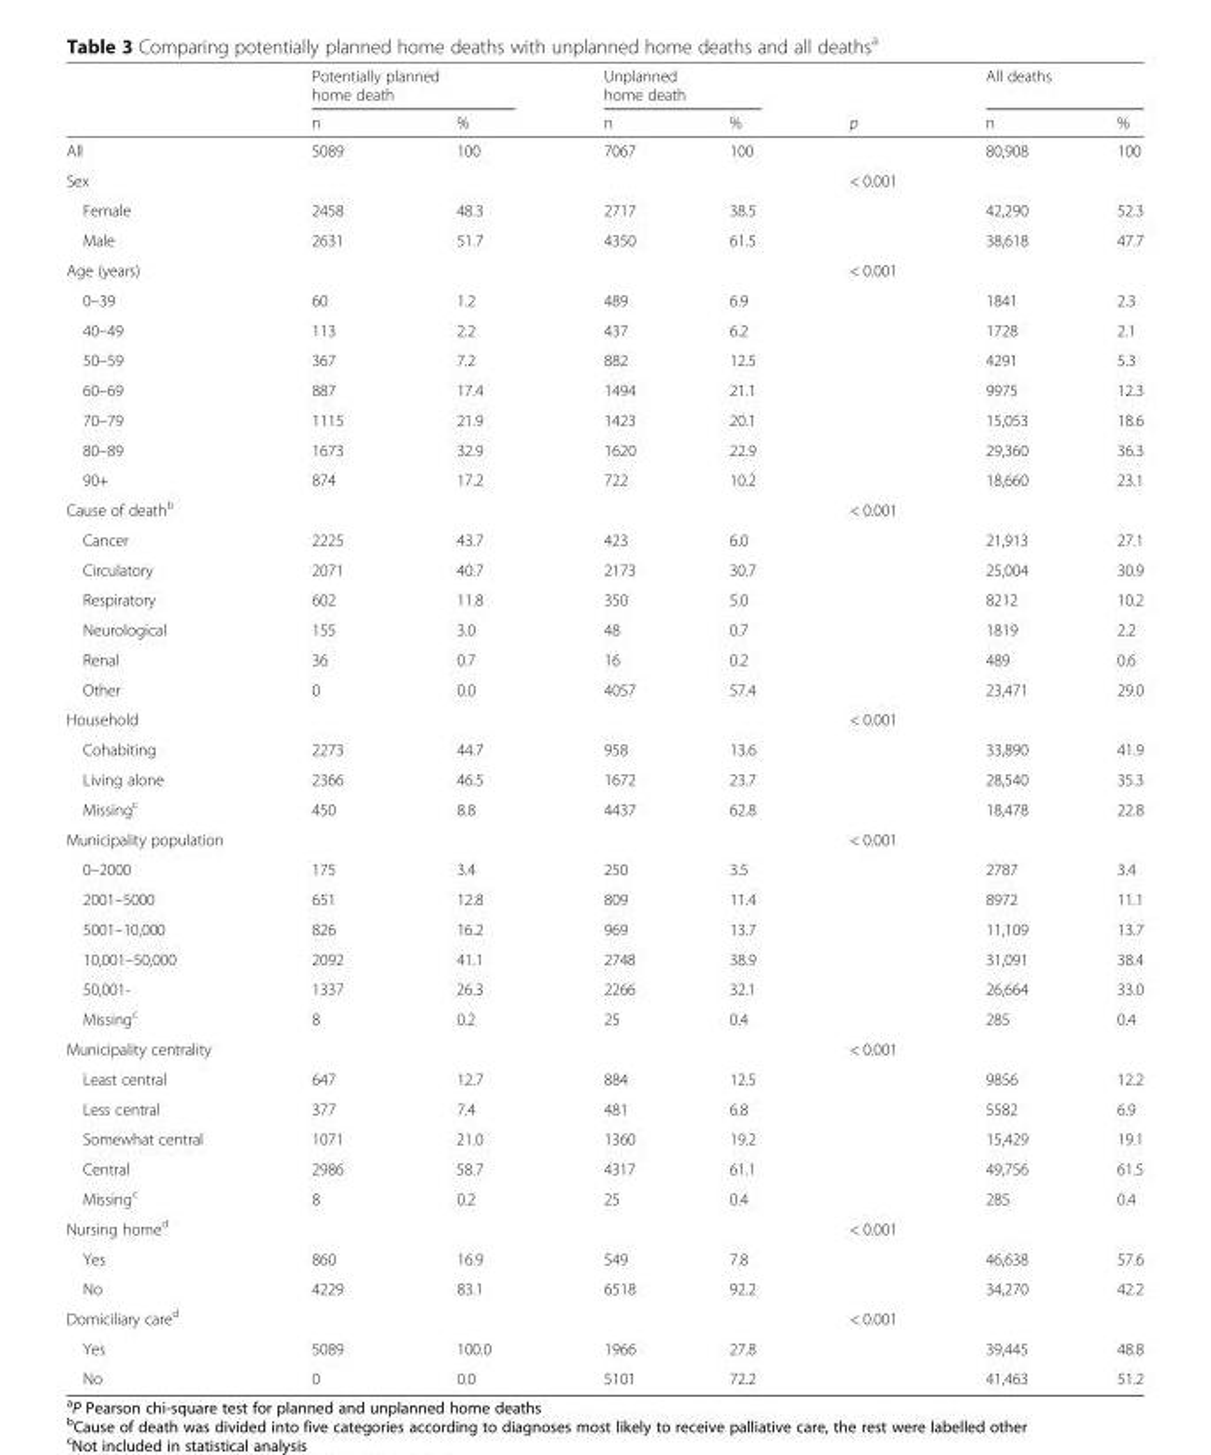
<table><thead><tr><td rowspan="2"></td><td colspan="2">Potentially planned home death</td><td colspan="2">Unplanned home death</td><td rowspan="2">p</td><td colspan="2">All deaths</td></tr><tr><td>n</td><td>%</td><td>n</td><td>%</td><td>n</td><td>%</td></tr></thead><tbody><tr><td>All</td><td>5089</td><td>100</td><td>7067</td><td>100</td><td></td><td>80,908</td><td>100</td></tr><tr><td>Sex</td><td></td><td></td><td></td><td></td><td>&lt; 0.001</td><td></td><td></td></tr><tr><td>Female</td><td>2458</td><td>48.3</td><td>2717</td><td>38.5</td><td></td><td>42,290</td><td>52.3</td></tr><tr><td>Male</td><td>2631</td><td>51.7</td><td>4350</td><td>61.5</td><td></td><td>38,618</td><td>47.7</td></tr><tr><td>Age (years)</td><td></td><td></td><td></td><td></td><td>&lt; 0.001</td><td></td><td></td></tr><tr><td>0–39</td><td>60</td><td>1.2</td><td>489</td><td>6.9</td><td></td><td>1841</td><td>2.3</td></tr><tr><td>40–49</td><td>113</td><td>2.2</td><td>437</td><td>6.2</td><td></td><td>1728</td><td>2.1</td></tr><tr><td>50–59</td><td>367</td><td>7.2</td><td>882</td><td>12.5</td><td></td><td>4291</td><td>5.3</td></tr><tr><td>60–69</td><td>887</td><td>17.4</td><td>1494</td><td>21.1</td><td></td><td>9975</td><td>12.3</td></tr><tr><td>70–79</td><td>1115</td><td>21.9</td><td>1423</td><td>20.1</td><td></td><td>15,053</td><td>18.6</td></tr><tr><td>80–89</td><td>1673</td><td>32.9</td><td>1620</td><td>22.9</td><td></td><td>29,360</td><td>36.3</td></tr><tr><td>90+</td><td>874</td><td>17.2</td><td>722</td><td>10.2</td><td></td><td>18,660</td><td>23.1</td></tr><tr><td>Cause of death<sup>b</sup></td><td></td><td></td><td></td><td></td><td>&lt; 0.001</td><td></td><td></td></tr><tr><td>Cancer</td><td>2225</td><td>43.7</td><td>423</td><td>6.0</td><td></td><td>21,913</td><td>27.1</td></tr><tr><td>Circulatory</td><td>2071</td><td>40.7</td><td>2173</td><td>30.7</td><td></td><td>25,004</td><td>30.9</td></tr><tr><td>Respiratory</td><td>602</td><td>11.8</td><td>350</td><td>5.0</td><td></td><td>8212</td><td>10.2</td></tr><tr><td>Neurological</td><td>155</td><td>3.0</td><td>48</td><td>0.7</td><td></td><td>1819</td><td>2.2</td></tr><tr><td>Renal</td><td>36</td><td>0.7</td><td>16</td><td>0.2</td><td></td><td>489</td><td>0.6</td></tr><tr><td>Other</td><td>0</td><td>0.0</td><td>4057</td><td>57.4</td><td></td><td>23,471</td><td>29.0</td></tr><tr><td>Household</td><td></td><td></td><td></td><td></td><td>&lt; 0.001</td><td></td><td></td></tr><tr><td>Cohabiting</td><td>2273</td><td>44.7</td><td>958</td><td>13.6</td><td></td><td>33,890</td><td>41.9</td></tr><tr><td>Living alone</td><td>2366</td><td>46.5</td><td>1672</td><td>23.7</td><td></td><td>28,540</td><td>35.3</td></tr><tr><td>Missing<sup>c</sup></td><td>450</td><td>8.8</td><td>4437</td><td>62.8</td><td></td><td>18,478</td><td>22.8</td></tr><tr><td>Municipality population</td><td></td><td></td><td></td><td></td><td>&lt; 0.001</td><td></td><td></td></tr><tr><td>0–2000</td><td>175</td><td>3.4</td><td>250</td><td>3.5</td><td></td><td>2787</td><td>3.4</td></tr><tr><td>2001–5000</td><td>651</td><td>12.8</td><td>809</td><td>11.4</td><td></td><td>8972</td><td>11.1</td></tr><tr><td>5001–10,000</td><td>826</td><td>16.2</td><td>969</td><td>13.7</td><td></td><td>11,109</td><td>13.7</td></tr><tr><td>10,001–50,000</td><td>2092</td><td>41.1</td><td>2748</td><td>38.9</td><td></td><td>31,091</td><td>38.4</td></tr><tr><td>50,001-</td><td>1337</td><td>26.3</td><td>2266</td><td>32.1</td><td></td><td>26,664</td><td>33.0</td></tr><tr><td>Missing<sup>c</sup></td><td>8</td><td>0.2</td><td>25</td><td>0.4</td><td></td><td>285</td><td>0.4</td></tr><tr><td>Municipality centrality</td><td></td><td></td><td></td><td></td><td>&lt; 0.001</td><td></td><td></td></tr><tr><td>Least central</td><td>647</td><td>12.7</td><td>884</td><td>12.5</td><td></td><td>9856</td><td>12.2</td></tr><tr><td>Less central</td><td>377</td><td>7.4</td><td>481</td><td>6.8</td><td></td><td>5582</td><td>6.9</td></tr><tr><td>Somewhat central</td><td>1071</td><td>21.0</td><td>1360</td><td>19.2</td><td></td><td>15,429</td><td>19.1</td></tr><tr><td>Central</td><td>2986</td><td>58.7</td><td>4317</td><td>61.1</td><td></td><td>49,756</td><td>61.5</td></tr><tr><td>Missing<sup>c</sup></td><td>8</td><td>0.2</td><td>25</td><td>0.4</td><td></td><td>285</td><td>0.4</td></tr><tr><td>Nursing home<sup>d</sup></td><td></td><td></td><td></td><td></td><td>&lt; 0.001</td><td></td><td></td></tr><tr><td>Yes</td><td>860</td><td>16.9</td><td>549</td><td>7.8</td><td></td><td>46,638</td><td>57.6</td></tr><tr><td>No</td><td>4229</td><td>83.1</td><td>6518</td><td>92.2</td><td></td><td>34,270</td><td>42.2</td></tr><tr><td>Domiciliary care<sup>d</sup></td><td></td><td></td><td></td><td></td><td>&lt; 0.001</td><td></td><td></td></tr><tr><td>Yes</td><td>5089</td><td>100.0</td><td>1966</td><td>27.8</td><td></td><td>39,445</td><td>48.8</td></tr><tr><td>No</td><td>0</td><td>0.0</td><td>5101</td><td>72.2</td><td></td><td>41,463</td><td>51.2</td></tr></tbody></table>